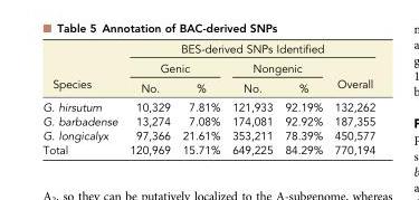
<table><thead><tr><td rowspan="3">Species</td><td colspan="5">BES-derived SNPs Identified</td></tr><tr><td colspan="2">Genic</td><td colspan="2">Nongenic</td><td rowspan="2">Overall</td></tr><tr><td>No.</td><td>%</td><td>No.</td><td>%</td></tr></thead><tbody><tr><td>G. hirsutum</td><td>10,329</td><td>7.81%</td><td>121,933</td><td>92.19%</td><td>132,262</td></tr><tr><td>G. barbadense</td><td>13,274</td><td>7.08%</td><td>174,081</td><td>92.92%</td><td>187,355</td></tr><tr><td>G. longicalyx</td><td>97,366</td><td>21.61%</td><td>353,211</td><td>78.39%</td><td>450,577</td></tr><tr><td>Total</td><td>120,969</td><td>15.71%</td><td>649,225</td><td>84.29%</td><td>770,194</td></tr></tbody></table>